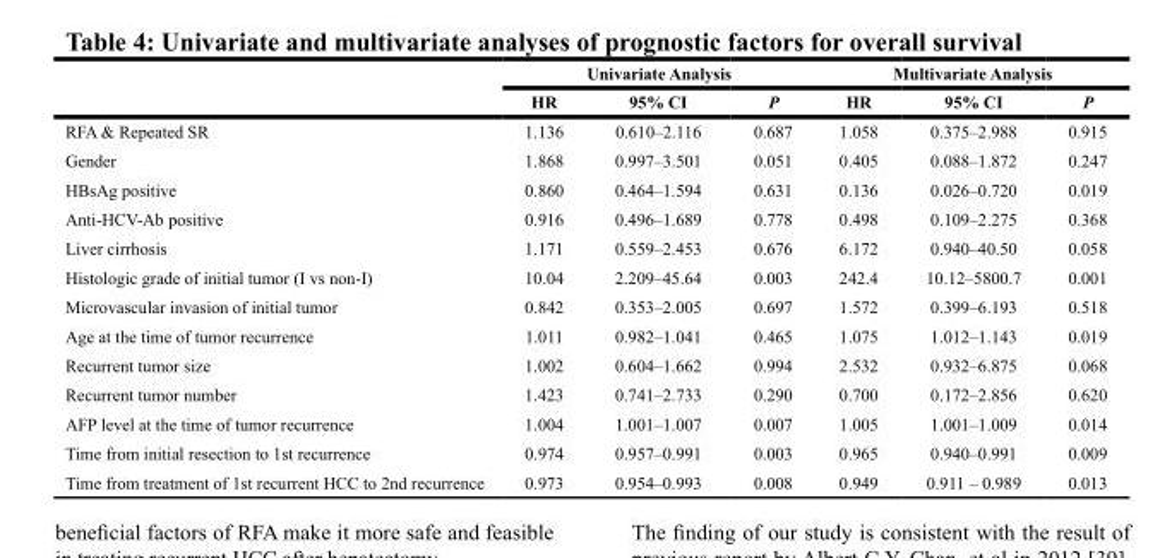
<table><thead><tr><td rowspan="2"></td><td colspan="3">Univariate Analysis</td><td colspan="3">Multivariate Analysis</td></tr><tr><td>HR</td><td>95% CI</td><td>P</td><td>HR</td><td>95% CI</td><td>P</td></tr></thead><tbody><tr><td>RFA &amp; Repeated SR</td><td>1.136</td><td>0.610–2.116</td><td>0.687</td><td>1.058</td><td>0.375–2.988</td><td>0.915</td></tr><tr><td>Gender</td><td>1.868</td><td>0.997–3.501</td><td>0.051</td><td>0.405</td><td>0.088–1.872</td><td>0.247</td></tr><tr><td>HBsAg positive</td><td>0.860</td><td>0.464–1.594</td><td>0.631</td><td>0.136</td><td>0.026–0.720</td><td>0.019</td></tr><tr><td>Anti-HCV-Ab positive</td><td>0.916</td><td>0.496–1.689</td><td>0.778</td><td>0.498</td><td>0.109–2.275</td><td>0.368</td></tr><tr><td>Liver cirrhosis</td><td>1.171</td><td>0.559–2.453</td><td>0.676</td><td>6.172</td><td>0.940–40.50</td><td>0.058</td></tr><tr><td>Histologic grade of initial tumor (I vs non-I)</td><td>10.04</td><td>2.209–45.64</td><td>0.003</td><td>242.4</td><td>10.12–5800.7</td><td>0.001</td></tr><tr><td>Microvascular invasion of initial tumor</td><td>0.842</td><td>0.353–2.005</td><td>0.697</td><td>1.572</td><td>0.399–6.193</td><td>0.518</td></tr><tr><td>Age at the time of tumor recurrence</td><td>1.011</td><td>0.982–1.041</td><td>0.465</td><td>1.075</td><td>1.012–1.143</td><td>0.019</td></tr><tr><td>Recurrent tumor size</td><td>1.002</td><td>0.604–1.662</td><td>0.994</td><td>2.532</td><td>0.932–6.875</td><td>0.068</td></tr><tr><td>Recurrent tumor number</td><td>1.423</td><td>0.741–2.733</td><td>0.290</td><td>0.700</td><td>0.172–2.856</td><td>0.620</td></tr><tr><td>AFP level at the time of tumor recurrence</td><td>1.004</td><td>1.001–1.007</td><td>0.007</td><td>1.005</td><td>1.001–1.009</td><td>0.014</td></tr><tr><td>Time from initial resection to 1st recurrence</td><td>0.974</td><td>0.957–0.991</td><td>0.003</td><td>0.965</td><td>0.940–0.991</td><td>0.009</td></tr><tr><td>Time from treatment of 1st recurrent HCC to 2nd recurrence</td><td>0.973</td><td>0.954–0.993</td><td>0.008</td><td>0.949</td><td>0.911 – 0.989</td><td>0.013</td></tr></tbody></table>